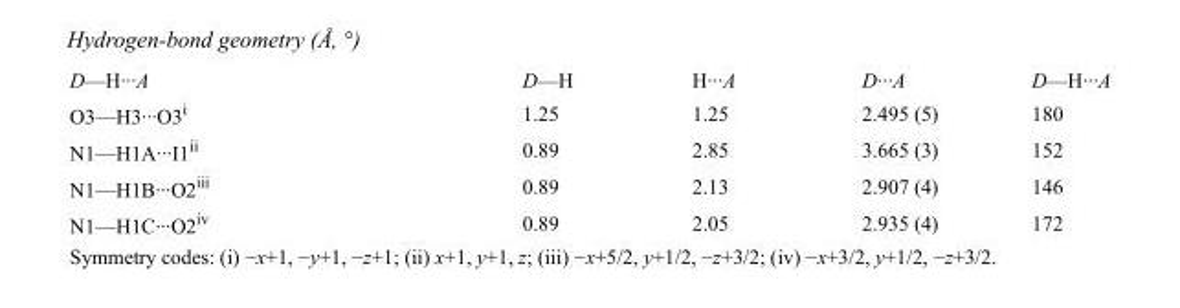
<table><tbody><tr><td>D—H···A</td><td>D—H</td><td>H···A</td><td>D···A</td><td>D—H···A</td></tr><tr><td>O3—H3···O3<sup>i</sup></td><td>1.25</td><td>1.25</td><td>2.495 (5)</td><td>180</td></tr><tr><td>N1—H1A···I1<sup>ii</sup></td><td>0.89</td><td>2.85</td><td>3.665 (3)</td><td>152</td></tr><tr><td>N1—H1B···O2<sup>iii</sup></td><td>0.89</td><td>2.13</td><td>2.907 (4)</td><td>146</td></tr><tr><td>N1—H1C···O2<sup>iv</sup></td><td>0.89</td><td>2.05</td><td>2.935 (4)</td><td>172</td></tr></tbody></table>